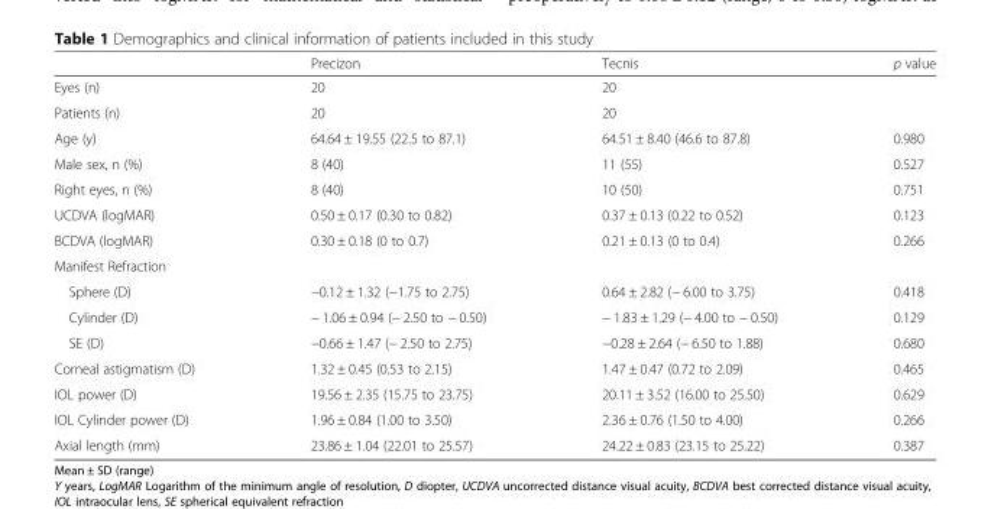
<table><thead><tr><td></td><td>Precizon</td><td>Tecnis</td><td>p value</td></tr></thead><tbody><tr><td>Eyes (n)</td><td>20</td><td>20</td><td></td></tr><tr><td>Patients (n)</td><td>20</td><td>20</td><td></td></tr><tr><td>Age (y)</td><td>64.64 ± 19.55 (22.5 to 87.1)</td><td>64.51 ± 8.40 (46.6 to 87.8)</td><td>0.980</td></tr><tr><td>Male sex, n (%)</td><td>8 (40)</td><td>11 (55)</td><td>0.527</td></tr><tr><td>Right eyes, n (%)</td><td>8 (40)</td><td>10 (50)</td><td>0.751</td></tr><tr><td>UCDVA (logMAR)</td><td>0.50 ± 0.17 (0.30 to 0.82)</td><td>0.37 ± 0.13 (0.22 to 0.52)</td><td>0.123</td></tr><tr><td>BCDVA (logMAR)</td><td>0.30 ± 0.18 (0 to 0.7)</td><td>0.21 ± 0.13 (0 to 0.4)</td><td>0.266</td></tr><tr><td colspan="4">Manifest Refraction</td></tr><tr><td>Sphere (D)</td><td>−0.12 ± 1.32 (−1.75 to 2.75)</td><td>0.64 ± 2.82 (− 6.00 to 3.75)</td><td>0.418</td></tr><tr><td>Cylinder (D)</td><td>− 1.06 ± 0.94 (− 2.50 to − 0.50)</td><td>− 1.83 ± 1.29 (− 4.00 to − 0.50)</td><td>0.129</td></tr><tr><td>SE (D)</td><td>−0.66 ± 1.47 (− 2.50 to 2.75)</td><td>−0.28 ± 2.64 (− 6.50 to 1.88)</td><td>0.680</td></tr><tr><td>Corneal astigmatism (D)</td><td>1.32 ± 0.45 (0.53 to 2.15)</td><td>1.47 ± 0.47 (0.72 to 2.09)</td><td>0.465</td></tr><tr><td>IOL power (D)</td><td>19.56 ± 2.35 (15.75 to 23.75)</td><td>20.11 ± 3.52 (16.00 to 25.50)</td><td>0.629</td></tr><tr><td>IOL Cylinder power (D)</td><td>1.96 ± 0.84 (1.00 to 3.50)</td><td>2.36 ± 0.76 (1.50 to 4.00)</td><td>0.266</td></tr><tr><td>Axial length (mm)</td><td>23.86 ± 1.04 (22.01 to 25.57)</td><td>24.22 ± 0.83 (23.15 to 25.22)</td><td>0.387</td></tr></tbody></table>